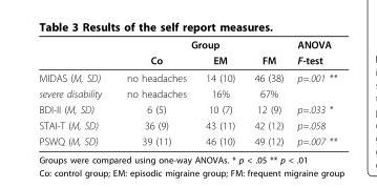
<table><thead><tr><td rowspan="2"></td><td colspan="3">Group</td><td rowspan="2">ANOVA F-test</td></tr><tr><td>Co</td><td>EM</td><td>FM</td></tr></thead><tbody><tr><td>MIDAS (M, SD)</td><td>no headaches</td><td>14 (10)</td><td>46 (38)</td><td>p=.001 **</td></tr><tr><td>severe disability</td><td>no headaches</td><td>16%</td><td>67%</td><td></td></tr><tr><td>BDI-II (M, SD)</td><td>6 (5)</td><td>10 (7)</td><td>12 (9)</td><td>p=.033 *</td></tr><tr><td>STAI-T (M, SD)</td><td>36 (9)</td><td>43 (11)</td><td>42 (12)</td><td>p=.058</td></tr><tr><td>PSWQ (M, SD)</td><td>39 (11)</td><td>46 (10)</td><td>49 (12)</td><td>p=.007 **</td></tr></tbody></table>